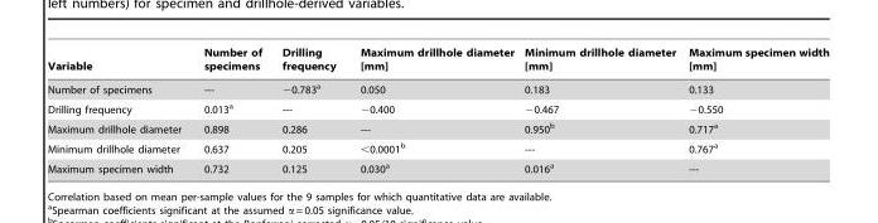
<table><thead><tr><td>Variable</td><td>Number of specimens</td><td>Drilling frequency</td><td>Maximum drillhole diameter [mm]</td><td>Minimum drillhole diameter [mm]</td><td>Maximum specimen width [mm]</td></tr></thead><tbody><tr><td>Number of specimens</td><td>---</td><td>−0.783<sup>a</sup></td><td>0.050</td><td>0.183</td><td>0.133</td></tr><tr><td>Drilling frequency</td><td>0.013<sup>a</sup></td><td>---</td><td>−0.400</td><td>−0.467</td><td>−0.550</td></tr><tr><td>Maximum drillhole diameter</td><td>0.898</td><td>0.286</td><td>---</td><td>0.950<sup>b</sup></td><td>0.717<sup>a</sup></td></tr><tr><td>Minimum drillhole diameter</td><td>0.637</td><td>0.205</td><td>&lt;0.0001<sup>b</sup></td><td>---</td><td>0.767<sup>a</sup></td></tr><tr><td>Maximum specimen width</td><td>0.732</td><td>0.125</td><td>0.030<sup>a</sup></td><td>0.016<sup>a</sup></td><td>---</td></tr></tbody></table>